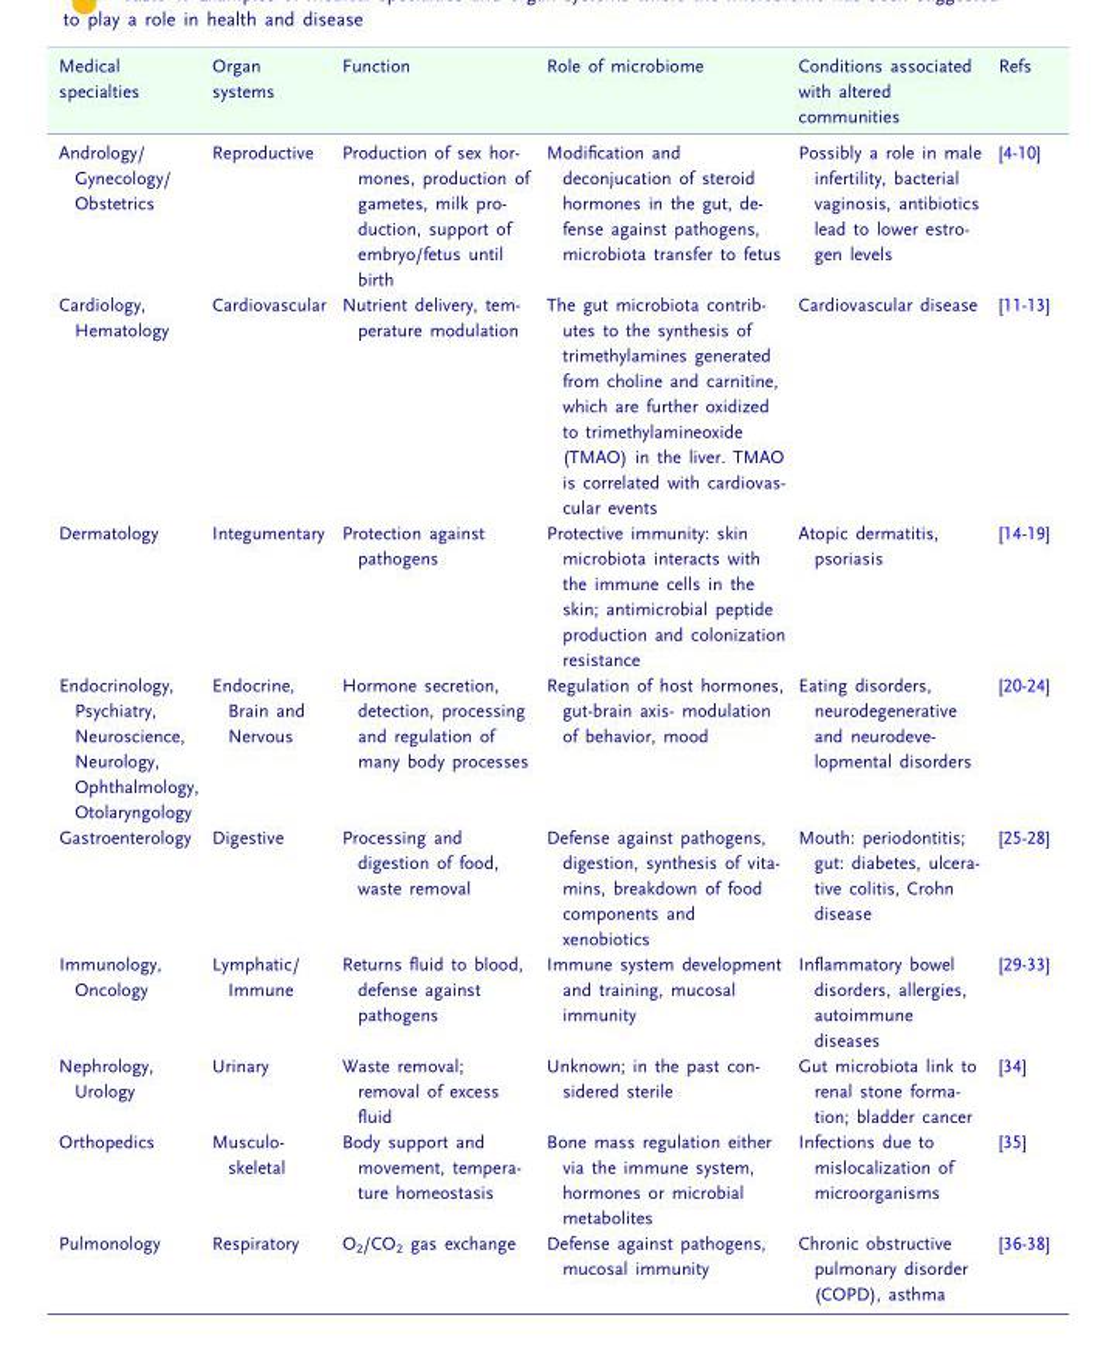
<table><thead><tr><td>Medical specialties</td><td>Organ systems</td><td>Function</td><td>Role of microbiome</td><td>Conditions associated with altered communities</td><td>Refs</td></tr></thead><tbody><tr><td>Andrology/ Gynecology/ Obstetrics</td><td>Reproductive</td><td>Production of sex hor- mones, production of gametes, milk pro- duction, support of embryo/fetus until birth</td><td>Modification and deconjucation of steroid hormones in the gut, de- fense against pathogens, microbiota transfer to fetus</td><td>Possibly a role in male infertility, bacterial vaginosis, antibiotics lead to lower estro- gen levels</td><td>[4-10]</td></tr><tr><td>Cardiology, Hematology</td><td>Cardiovascular</td><td>Nutrient delivery, tem- perature modulation</td><td>The gut microbiota contrib- utes to the synthesis of trimethylamines generated from choline and carnitine, which are further oxidized to trimethylamineoxide (TMAO) in the liver. TMAO is correlated with cardiovas- cular events</td><td>Cardiovascular disease</td><td>[11-13]</td></tr><tr><td>Dermatology</td><td>Integumentary</td><td>Protection against pathogens</td><td>Protective immunity: skin microbiota interacts with the immune cells in the skin; antimicrobial peptide production and colonization resistance</td><td>Atopic dermatitis, psoriasis</td><td>[14-19]</td></tr><tr><td>Endocrinology, Psychiatry, Neuroscience, Neurology, Ophthalmology, Otolaryngology</td><td>Endocrine, Brain and Nervous</td><td>Hormone secretion, detection, processing and regulation of many body processes</td><td>Regulation of host hormones, gut-brain axis- modulation of behavior, mood</td><td>Eating disorders, neurodegenerative and neurodeve- lopmental disorders</td><td>[20-24]</td></tr><tr><td>Gastroenterology</td><td>Digestive</td><td>Processing and digestion of food, waste removal</td><td>Defense against pathogens, digestion, synthesis of vita- mins, breakdown of food components and xenobiotics</td><td>Mouth: periodontitis; gut: diabetes, ulcera- tive colitis, Crohn disease</td><td>[25-28]</td></tr><tr><td>Immunology, Oncology</td><td>Lymphatic/ Immune</td><td>Returns fluid to blood, defense against pathogens</td><td>Immune system development and training, mucosal immunity</td><td>Inflammatory bowel disorders, allergies, autoimmune diseases</td><td>[29-33]</td></tr><tr><td>Nephrology, Urology</td><td>Urinary</td><td>Waste removal; removal of excess fluid</td><td>Unknown; in the past con- sidered sterile</td><td>Gut microbiota link to renal stone forma- tion; bladder cancer</td><td>[34]</td></tr><tr><td>Orthopedics</td><td>Musculo- skeletal</td><td>Body support and movement, tempera- ture homeostasis</td><td>Bone mass regulation either via the immune system, hormones or microbial metabolites</td><td>Infections due to mislocalization of microorganisms</td><td>[35]</td></tr><tr><td>Pulmonology</td><td>Respiratory</td><td>O<sub>2</sub>/CO<sub>2</sub> gas exchange</td><td>Defense against pathogens, mucosal immunity</td><td>Chronic obstructive pulmonary disorder (COPD), asthma</td><td>[36-38]</td></tr></tbody></table>